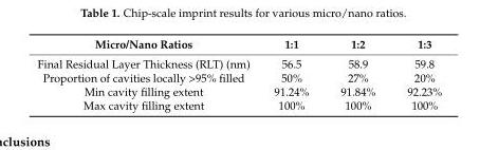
<table><thead><tr><td>Micro/Nano Ratios</td><td>1:1</td><td>1:2</td><td>1:3</td></tr></thead><tbody><tr><td>Final Residual Layer Thickness (RLT) (nm)</td><td>56.5</td><td>58.9</td><td>59.8</td></tr><tr><td>Proportion of cavities locally &gt;95% filled</td><td>50%</td><td>27%</td><td>20%</td></tr><tr><td>Min cavity filling extent</td><td>91.24%</td><td>91.84%</td><td>92.23%</td></tr><tr><td>Max cavity filling extent</td><td>100%</td><td>100%</td><td>100%</td></tr></tbody></table>